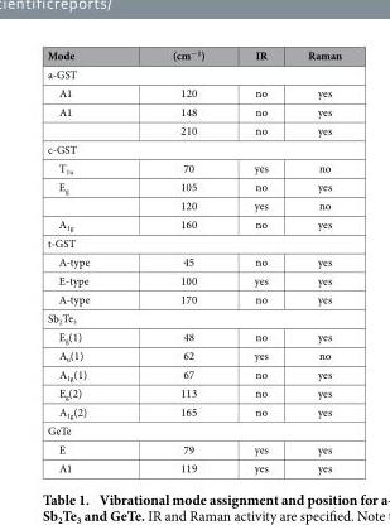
<table><thead><tr><td>Mode</td><td>(cm<sup>−1</sup>)</td><td>IR</td><td>Raman</td></tr></thead><tbody><tr><td colspan="4">a-GST</td></tr><tr><td>A1</td><td>120</td><td>no</td><td>yes</td></tr><tr><td rowspan="2">A1</td><td>148</td><td>no</td><td>yes</td></tr><tr><td>210</td><td>no</td><td>yes</td></tr><tr><td colspan="4">c-GST</td></tr><tr><td>T<sub>1u</sub></td><td>70</td><td>yes</td><td>no</td></tr><tr><td rowspan="2">E<sub>g</sub></td><td>105</td><td>no</td><td>yes</td></tr><tr><td>120</td><td>yes</td><td>no</td></tr><tr><td>A<sub>1g</sub></td><td>160</td><td>no</td><td>yes</td></tr><tr><td colspan="4">t-GST</td></tr><tr><td>A-type</td><td>45</td><td>no</td><td>yes</td></tr><tr><td>E-type</td><td>100</td><td>yes</td><td>yes</td></tr><tr><td>A-type</td><td>170</td><td>no</td><td>yes</td></tr><tr><td colspan="4">Sb<sub>2</sub>Te<sub>3</sub></td></tr><tr><td>E<sub>g</sub>(1)</td><td>48</td><td>no</td><td>yes</td></tr><tr><td>A<sub>u</sub>(1)</td><td>62</td><td>yes</td><td>no</td></tr><tr><td>A<sub>1g</sub>(1)</td><td>67</td><td>no</td><td>yes</td></tr><tr><td>E<sub>g</sub>(2)</td><td>113</td><td>no</td><td>yes</td></tr><tr><td>A<sub>1g</sub>(2)</td><td>165</td><td>no</td><td>yes</td></tr><tr><td colspan="4">GeTe</td></tr><tr><td>E</td><td>79</td><td>yes</td><td>yes</td></tr><tr><td>A1</td><td>119</td><td>yes</td><td>yes</td></tr></tbody></table>